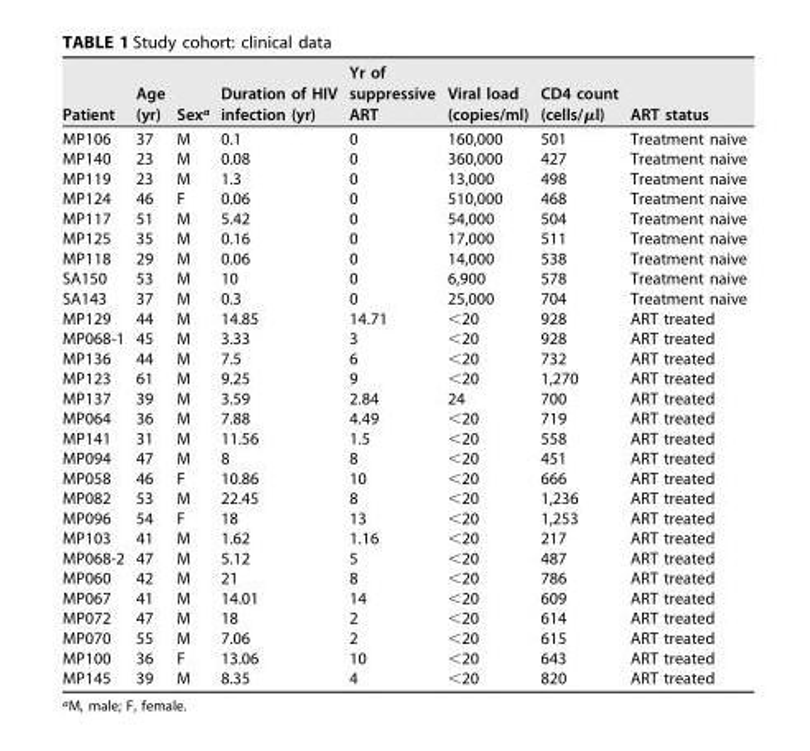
<table><thead><tr><td>Patient</td><td>Age (yr)</td><td>Sex<sup>a</sup></td><td>Duration of HIV infection (yr)</td><td>Yr of suppressive ART</td><td>Viral load (copies/ml)</td><td>CD4 count (cells/μl)</td><td>ART status</td></tr></thead><tbody><tr><td>MP106</td><td>37</td><td>M</td><td>0.1</td><td>0</td><td>160,000</td><td>501</td><td>Treatment naive</td></tr><tr><td>MP140</td><td>23</td><td>M</td><td>0.08</td><td>0</td><td>360,000</td><td>427</td><td>Treatment naive</td></tr><tr><td>MP119</td><td>23</td><td>M</td><td>1.3</td><td>0</td><td>13,000</td><td>498</td><td>Treatment naive</td></tr><tr><td>MP124</td><td>46</td><td>F</td><td>0.06</td><td>0</td><td>510,000</td><td>468</td><td>Treatment naive</td></tr><tr><td>MP117</td><td>51</td><td>M</td><td>5.42</td><td>0</td><td>54,000</td><td>504</td><td>Treatment naive</td></tr><tr><td>MP125</td><td>35</td><td>M</td><td>0.16</td><td>0</td><td>17,000</td><td>511</td><td>Treatment naive</td></tr><tr><td>MP118</td><td>29</td><td>M</td><td>0.06</td><td>0</td><td>14,000</td><td>538</td><td>Treatment naive</td></tr><tr><td>SA150</td><td>53</td><td>M</td><td>10</td><td>0</td><td>6,900</td><td>578</td><td>Treatment naive</td></tr><tr><td>SA143</td><td>37</td><td>M</td><td>0.3</td><td>0</td><td>25,000</td><td>704</td><td>Treatment naive</td></tr><tr><td>MP129</td><td>44</td><td>M</td><td>14.85</td><td>14.71</td><td>&lt;20</td><td>928</td><td>ART treated</td></tr><tr><td>MP068-1</td><td>45</td><td>M</td><td>3.33</td><td>3</td><td>&lt;20</td><td>928</td><td>ART treated</td></tr><tr><td>MP136</td><td>44</td><td>M</td><td>7.5</td><td>6</td><td>&lt;20</td><td>732</td><td>ART treated</td></tr><tr><td>MP123</td><td>61</td><td>M</td><td>9.25</td><td>9</td><td>&lt;20</td><td>1,270</td><td>ART treated</td></tr><tr><td>MP137</td><td>39</td><td>M</td><td>3.59</td><td>2.84</td><td>24</td><td>700</td><td>ART treated</td></tr><tr><td>MP064</td><td>36</td><td>M</td><td>7.88</td><td>4.49</td><td>&lt;20</td><td>719</td><td>ART treated</td></tr><tr><td>MP141</td><td>31</td><td>M</td><td>11.56</td><td>1.5</td><td>&lt;20</td><td>558</td><td>ART treated</td></tr><tr><td>MP094</td><td>47</td><td>M</td><td>8</td><td>8</td><td>&lt;20</td><td>451</td><td>ART treated</td></tr><tr><td>MP058</td><td>46</td><td>F</td><td>10.86</td><td>10</td><td>&lt;20</td><td>666</td><td>ART treated</td></tr><tr><td>MP082</td><td>53</td><td>M</td><td>22.45</td><td>8</td><td>&lt;20</td><td>1,236</td><td>ART treated</td></tr><tr><td>MP096</td><td>54</td><td>F</td><td>18</td><td>13</td><td>&lt;20</td><td>1,253</td><td>ART treated</td></tr><tr><td>MP103</td><td>41</td><td>M</td><td>1.62</td><td>1.16</td><td>&lt;20</td><td>217</td><td>ART treated</td></tr><tr><td>MP068-2</td><td>47</td><td>M</td><td>5.12</td><td>5</td><td>&lt;20</td><td>487</td><td>ART treated</td></tr><tr><td>MP060</td><td>42</td><td>M</td><td>21</td><td>8</td><td>&lt;20</td><td>786</td><td>ART treated</td></tr><tr><td>MP067</td><td>41</td><td>M</td><td>14.01</td><td>14</td><td>&lt;20</td><td>609</td><td>ART treated</td></tr><tr><td>MP072</td><td>47</td><td>M</td><td>18</td><td>2</td><td>&lt;20</td><td>614</td><td>ART treated</td></tr><tr><td>MP070</td><td>55</td><td>M</td><td>7.06</td><td>2</td><td>&lt;20</td><td>615</td><td>ART treated</td></tr><tr><td>MP100</td><td>36</td><td>F</td><td>13.06</td><td>10</td><td>&lt;20</td><td>643</td><td>ART treated</td></tr><tr><td>MP145</td><td>39</td><td>M</td><td>8.35</td><td>4</td><td>&lt;20</td><td>820</td><td>ART treated</td></tr></tbody></table>